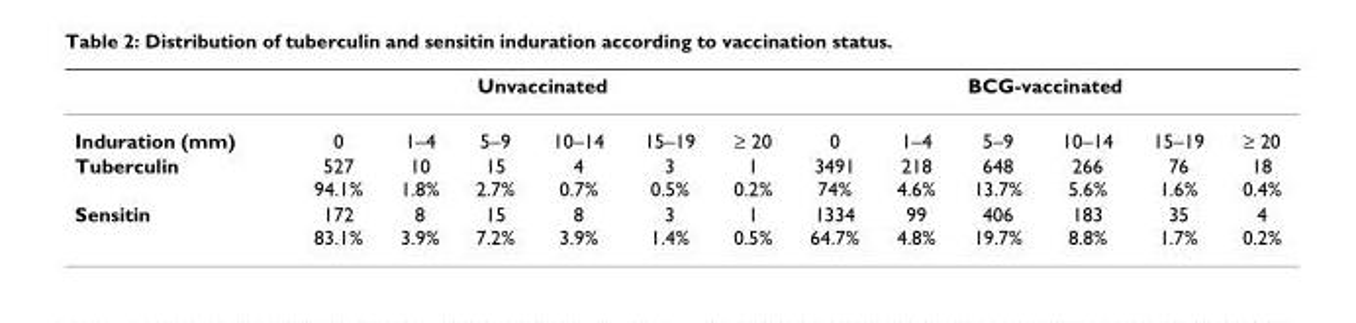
<table><thead><tr><td rowspan="2">Induration (mm)</td><td colspan="6">Unvaccinated</td><td colspan="6">BCG-vaccinated</td></tr><tr><td>0</td><td>1–4</td><td>5–9</td><td>10–14</td><td>15–19</td><td>≥ 20</td><td>0</td><td>1–4</td><td>5–9</td><td>10–14</td><td>15–19</td><td>≥ 20</td></tr></thead><tbody><tr><td>Tuberculin</td><td>527 94.1%</td><td>10 1.8%</td><td>15 2.7%</td><td>4 0.7%</td><td>3 0.5%</td><td>1 0.2%</td><td>3491 74%</td><td>218 4.6%</td><td>648 13.7%</td><td>266 5.6%</td><td>76 1.6%</td><td>18 0.4%</td></tr><tr><td>Sensitin</td><td>172 83.1%</td><td>8 3.9%</td><td>15 7.2%</td><td>8 3.9%</td><td>3 1.4%</td><td>1 0.5%</td><td>1334 64.7%</td><td>99 4.8%</td><td>406 19.7%</td><td>183 8.8%</td><td>35 1.7%</td><td>4 0.2%</td></tr></tbody></table>